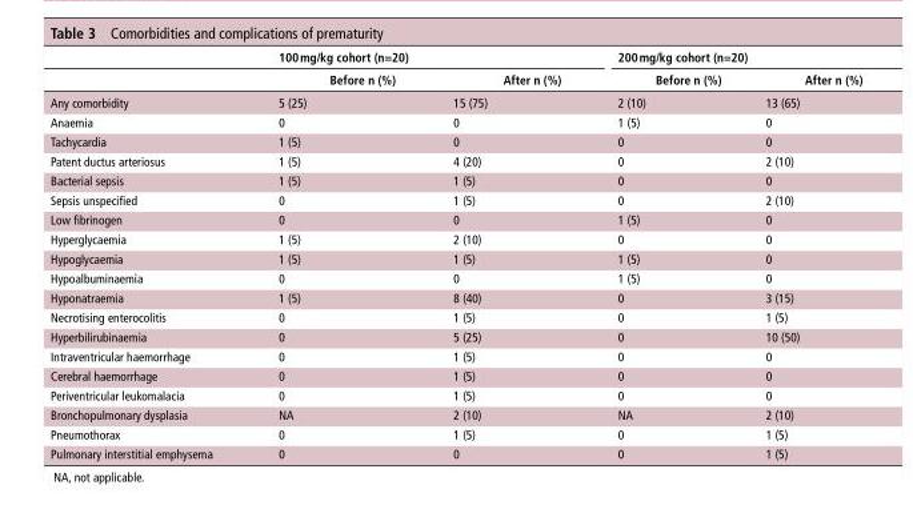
<table><thead><tr><td rowspan="2"></td><td colspan="2">100 mg/kg cohort (n=20)</td><td colspan="2">200 mg/kg cohort (n=20)</td></tr><tr><td>Before n (%)</td><td>After n (%)</td><td>Before n (%)</td><td>After n (%)</td></tr></thead><tbody><tr><td>Any comorbidity</td><td>5 (25)</td><td>15 (75)</td><td>2 (10)</td><td>13 (65)</td></tr><tr><td>Anaemia</td><td>0</td><td>0</td><td>1 (5)</td><td>0</td></tr><tr><td>Tachycardia</td><td>1 (5)</td><td>0</td><td>0</td><td>0</td></tr><tr><td>Patent ductus arteriosus</td><td>1 (5)</td><td>4 (20)</td><td>0</td><td>2 (10)</td></tr><tr><td>Bacterial sepsis</td><td>1 (5)</td><td>1 (5)</td><td>0</td><td>0</td></tr><tr><td>Sepsis unspecified</td><td>0</td><td>1 (5)</td><td>0</td><td>2 (10)</td></tr><tr><td>Low fibrinogen</td><td>0</td><td>0</td><td>1 (5)</td><td>0</td></tr><tr><td>Hyperglycaemia</td><td>1 (5)</td><td>2 (10)</td><td>0</td><td>0</td></tr><tr><td>Hypoglycaemia</td><td>1 (5)</td><td>1 (5)</td><td>1 (5)</td><td>0</td></tr><tr><td>Hypoalbuminaemia</td><td>0</td><td>0</td><td>1 (5)</td><td>0</td></tr><tr><td>Hyponatraemia</td><td>1 (5)</td><td>8 (40)</td><td>0</td><td>3 (15)</td></tr><tr><td>Necrotising enterocolitis</td><td>0</td><td>1 (5)</td><td>0</td><td>1 (5)</td></tr><tr><td>Hyperbilirubinaemia</td><td>0</td><td>5 (25)</td><td>0</td><td>10 (50)</td></tr><tr><td>Intraventricular haemorrhage</td><td>0</td><td>1 (5)</td><td>0</td><td>0</td></tr><tr><td>Cerebral haemorrhage</td><td>0</td><td>1 (5)</td><td>0</td><td>0</td></tr><tr><td>Periventricular leukomalacia</td><td>0</td><td>1 (5)</td><td>0</td><td>0</td></tr><tr><td>Bronchopulmonary dysplasia</td><td>NA</td><td>2 (10)</td><td>NA</td><td>2 (10)</td></tr><tr><td>Pneumothorax</td><td>0</td><td>1 (5)</td><td>0</td><td>1 (5)</td></tr><tr><td>Pulmonary interstitial emphysema</td><td>0</td><td>0</td><td>0</td><td>1 (5)</td></tr></tbody></table>